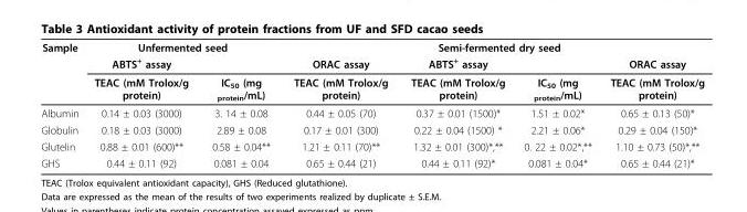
<table><thead><tr><td rowspan="3">Sample</td><td colspan="2">Unfermented seed</td><td rowspan="3">ORAC assay TEAC (mM Trolox/g protein)</td><td colspan="2">Semi-fermented dry seed</td><td rowspan="3">ORAC assay TEAC (mM Trolox/g protein)</td></tr><tr><td rowspan="2">ABTS<sup>+</sup> assay TEAC (mM Trolox/g protein)</td><td rowspan="2">IC<sub>50</sub> (mg <sub>protein</sub>/mL)</td><td rowspan="2">ABTS<sup>+</sup> assay TEAC (mM Trolox/g protein)</td><td rowspan="2">IC<sub>50</sub> (mg <sub>protein</sub>/mL)</td></tr><tr></tr></thead><tbody><tr><td>Albumin</td><td>0.14 ± 0.03 (3000)</td><td>3. 14 ± 0.08</td><td>0.44 ± 0.05 (70)</td><td>0.37 ± 0.01 (1500)*</td><td>1.51 ± 0.02*</td><td>0.65 ± 0.13 (50)*</td></tr><tr><td>Globulin</td><td>0.18 ± 0.03 (3000)</td><td>2.89 ± 0.08</td><td>0.17 ± 0.01 (300)</td><td>0.22 ± 0.04 (1500) *</td><td>2.21 ± 0.06*</td><td>0.29 ± 0.04 (150)*</td></tr><tr><td>Glutelin</td><td>0.88 ± 0.01 (600)**</td><td>0.58 ± 0.04**</td><td>1.21 ± 0.11 (70)**</td><td>1.32 ± 0.01 (300)*,**</td><td>0. 22 ± 0.02*,**</td><td>1.10 ± 0.73 (50)*,**</td></tr><tr><td>GHS</td><td>0.44 ± 0.11 (92)</td><td>0.081 ± 0.04</td><td>0.65 ± 0.44 (21)</td><td>0.44 ± 0.11 (92)*</td><td>0.081 ± 0.04*</td><td>0.65 ± 0.44 (21)*</td></tr></tbody></table>